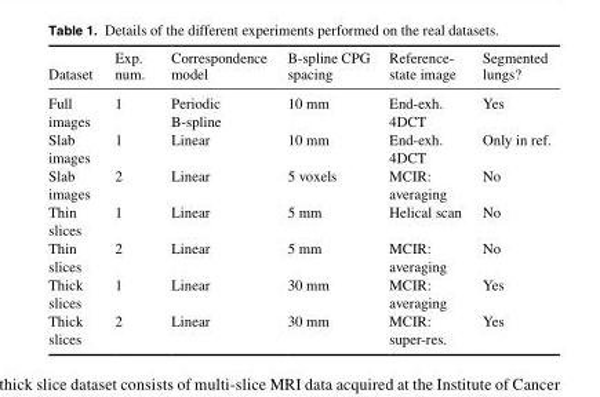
<table><thead><tr><td>Dataset</td><td>Exp. num.</td><td>Correspondence model</td><td>B-spline CPG spacing</td><td>Reference- state image</td><td>Segmented lungs?</td></tr></thead><tbody><tr><td>Full images</td><td>1</td><td>Periodic B-spline</td><td>10 mm</td><td>End-exh. 4DCT</td><td>Yes</td></tr><tr><td>Slab images</td><td>1</td><td>Linear</td><td>10 mm</td><td>End-exh. 4DCT</td><td>Only in ref.</td></tr><tr><td>Slab images</td><td>2</td><td>Linear</td><td>5 voxels</td><td>MCIR: averaging</td><td>No</td></tr><tr><td>Thin slices</td><td>1</td><td>Linear</td><td>5 mm</td><td>Helical scan</td><td>No</td></tr><tr><td>Thin slices</td><td>2</td><td>Linear</td><td>5 mm</td><td>MCIR: averaging</td><td>No</td></tr><tr><td>Thick slices</td><td>1</td><td>Linear</td><td>30 mm</td><td>MCIR: averaging</td><td>Yes</td></tr><tr><td>Thick slices</td><td>2</td><td>Linear</td><td>30 mm</td><td>MCIR: super-res.</td><td>Yes</td></tr></tbody></table>